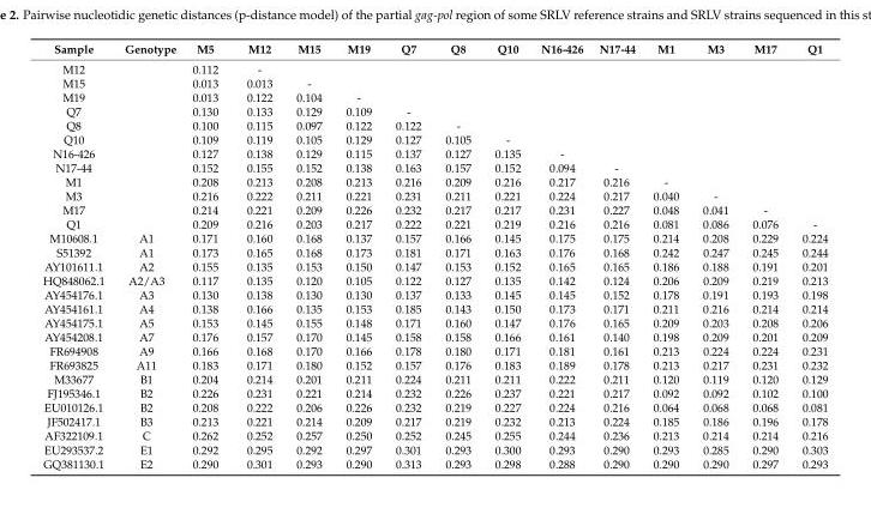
<table><thead><tr><td>Sample</td><td>Genotype</td><td>M5</td><td>M12</td><td>M15</td><td>M19</td><td>Q7</td><td>Q8</td><td>Q10</td><td>N16-426</td><td>N17-44</td><td>M1</td><td>M3</td><td>M17</td><td>Q1</td></tr></thead><tbody><tr><td>M12</td><td></td><td>0.112</td><td>-</td><td></td><td></td><td></td><td></td><td></td><td></td><td></td><td></td><td></td><td></td><td></td></tr><tr><td>M15</td><td></td><td>0.013</td><td>0.013</td><td>-</td><td></td><td></td><td></td><td></td><td></td><td></td><td></td><td></td><td></td><td></td></tr><tr><td>M19</td><td></td><td>0.013</td><td>0.122</td><td>0.104</td><td>-</td><td></td><td></td><td></td><td></td><td></td><td></td><td></td><td></td><td></td></tr><tr><td>Q7</td><td></td><td>0.130</td><td>0.133</td><td>0.129</td><td>0.109</td><td>-</td><td></td><td></td><td></td><td></td><td></td><td></td><td></td><td></td></tr><tr><td>Q8</td><td></td><td>0.100</td><td>0.115</td><td>0.097</td><td>0.122</td><td>0.122</td><td>-</td><td></td><td></td><td></td><td></td><td></td><td></td><td></td></tr><tr><td>Q10</td><td></td><td>0.109</td><td>0.119</td><td>0.105</td><td>0.129</td><td>0.127</td><td>0.105</td><td>-</td><td></td><td></td><td></td><td></td><td></td><td></td></tr><tr><td>N16-426</td><td></td><td>0.127</td><td>0.138</td><td>0.129</td><td>0.115</td><td>0.137</td><td>0.127</td><td>0.135</td><td>-</td><td></td><td></td><td></td><td></td><td></td></tr><tr><td>N17-44</td><td></td><td>0.152</td><td>0.155</td><td>0.152</td><td>0.138</td><td>0.163</td><td>0.157</td><td>0.152</td><td>0.094</td><td>-</td><td></td><td></td><td></td><td></td></tr><tr><td>M1</td><td></td><td>0.208</td><td>0.213</td><td>0.208</td><td>0.213</td><td>0.216</td><td>0.209</td><td>0.216</td><td>0.217</td><td>0.216</td><td>-</td><td></td><td></td><td></td></tr><tr><td>M3</td><td></td><td>0.216</td><td>0.222</td><td>0.211</td><td>0.221</td><td>0.231</td><td>0.211</td><td>0.221</td><td>0.224</td><td>0.217</td><td>0.040</td><td>-</td><td></td><td></td></tr><tr><td>M17</td><td></td><td>0.214</td><td>0.221</td><td>0.209</td><td>0.226</td><td>0.232</td><td>0.217</td><td>0.217</td><td>0.231</td><td>0.227</td><td>0.048</td><td>0.041</td><td>-</td><td></td></tr><tr><td>Q1</td><td></td><td>0.209</td><td>0.216</td><td>0.203</td><td>0.217</td><td>0.222</td><td>0.221</td><td>0.219</td><td>0.216</td><td>0.216</td><td>0.081</td><td>0.086</td><td>0.076</td><td>-</td></tr><tr><td>M10608.1</td><td>A1</td><td>0.171</td><td>0.160</td><td>0.168</td><td>0.137</td><td>0.157</td><td>0.166</td><td>0.145</td><td>0.175</td><td>0.175</td><td>0.214</td><td>0.208</td><td>0.229</td><td>0.224</td></tr><tr><td>S51392</td><td>A1</td><td>0.173</td><td>0.165</td><td>0.168</td><td>0.173</td><td>0.181</td><td>0.171</td><td>0.163</td><td>0.176</td><td>0.168</td><td>0.242</td><td>0.247</td><td>0.245</td><td>0.244</td></tr><tr><td>AY101611.1</td><td>A2</td><td>0.155</td><td>0.135</td><td>0.153</td><td>0.150</td><td>0.147</td><td>0.153</td><td>0.152</td><td>0.165</td><td>0.165</td><td>0.186</td><td>0.188</td><td>0.191</td><td>0.201</td></tr><tr><td>HQ848062.1</td><td>A2/A3</td><td>0.117</td><td>0.135</td><td>0.120</td><td>0.105</td><td>0.122</td><td>0.127</td><td>0.135</td><td>0.142</td><td>0.124</td><td>0.206</td><td>0.209</td><td>0.219</td><td>0.213</td></tr><tr><td>AY454176.1</td><td>A3</td><td>0.130</td><td>0.138</td><td>0.130</td><td>0.130</td><td>0.137</td><td>0.133</td><td>0.145</td><td>0.145</td><td>0.152</td><td>0.178</td><td>0.191</td><td>0.193</td><td>0.198</td></tr><tr><td>AY454161.1</td><td>A4</td><td>0.138</td><td>0.166</td><td>0.135</td><td>0.153</td><td>0.185</td><td>0.143</td><td>0.150</td><td>0.173</td><td>0.171</td><td>0.211</td><td>0.216</td><td>0.214</td><td>0.214</td></tr><tr><td>AY454175.1</td><td>A5</td><td>0.153</td><td>0.145</td><td>0.155</td><td>0.148</td><td>0.171</td><td>0.160</td><td>0.147</td><td>0.176</td><td>0.165</td><td>0.209</td><td>0.203</td><td>0.208</td><td>0.206</td></tr><tr><td>AY454208.1</td><td>A7</td><td>0.176</td><td>0.157</td><td>0.170</td><td>0.145</td><td>0.158</td><td>0.158</td><td>0.166</td><td>0.161</td><td>0.140</td><td>0.198</td><td>0.209</td><td>0.201</td><td>0.209</td></tr><tr><td>FR694908</td><td>A9</td><td>0.166</td><td>0.168</td><td>0.170</td><td>0.166</td><td>0.178</td><td>0.180</td><td>0.171</td><td>0.181</td><td>0.161</td><td>0.213</td><td>0.224</td><td>0.224</td><td>0.231</td></tr><tr><td>FR693825</td><td>A11</td><td>0.183</td><td>0.171</td><td>0.180</td><td>0.152</td><td>0.157</td><td>0.176</td><td>0.183</td><td>0.189</td><td>0.178</td><td>0.213</td><td>0.217</td><td>0.231</td><td>0.232</td></tr><tr><td>M33677</td><td>B1</td><td>0.204</td><td>0.214</td><td>0.201</td><td>0.211</td><td>0.224</td><td>0.211</td><td>0.211</td><td>0.222</td><td>0.211</td><td>0.120</td><td>0.119</td><td>0.120</td><td>0.129</td></tr><tr><td>FJ195346.1</td><td>B2</td><td>0.226</td><td>0.231</td><td>0.221</td><td>0.214</td><td>0.232</td><td>0.226</td><td>0.237</td><td>0.221</td><td>0.217</td><td>0.092</td><td>0.092</td><td>0.102</td><td>0.100</td></tr><tr><td>EU010126.1</td><td>B2</td><td>0.208</td><td>0.222</td><td>0.206</td><td>0.226</td><td>0.232</td><td>0.219</td><td>0.227</td><td>0.224</td><td>0.216</td><td>0.064</td><td>0.068</td><td>0.068</td><td>0.081</td></tr><tr><td>JF502417.1</td><td>B3</td><td>0.213</td><td>0.221</td><td>0.214</td><td>0.209</td><td>0.217</td><td>0.219</td><td>0.232</td><td>0.213</td><td>0.224</td><td>0.185</td><td>0.186</td><td>0.196</td><td>0.178</td></tr><tr><td>AF322109.1</td><td>C</td><td>0.262</td><td>0.252</td><td>0.257</td><td>0.250</td><td>0.252</td><td>0.245</td><td>0.255</td><td>0.244</td><td>0.236</td><td>0.213</td><td>0.214</td><td>0.214</td><td>0.216</td></tr><tr><td>EU293537.2</td><td>E1</td><td>0.292</td><td>0.295</td><td>0.292</td><td>0.297</td><td>0.301</td><td>0.293</td><td>0.300</td><td>0.293</td><td>0.290</td><td>0.293</td><td>0.285</td><td>0.290</td><td>0.303</td></tr><tr><td>GQ381130.1</td><td>E2</td><td>0.290</td><td>0.301</td><td>0.293</td><td>0.290</td><td>0.313</td><td>0.293</td><td>0.298</td><td>0.288</td><td>0.290</td><td>0.290</td><td>0.290</td><td>0.297</td><td>0.293</td></tr></tbody></table>